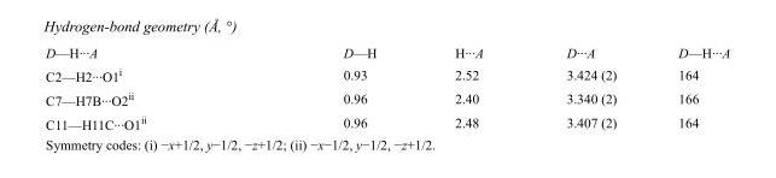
<table><tbody><tr><td>D—H···A</td><td>D—H</td><td>H···A</td><td>D···A</td><td>D—H···A</td></tr><tr><td>C2—H2···O1<sup>i</sup></td><td>0.93</td><td>2.52</td><td>3.424 (2)</td><td>164</td></tr><tr><td>C7—H7B···O2<sup>ii</sup></td><td>0.96</td><td>2.40</td><td>3.340 (2)</td><td>166</td></tr><tr><td>C11—H11C···O1<sup>ii</sup></td><td>0.96</td><td>2.48</td><td>3.407 (2)</td><td>164</td></tr></tbody></table>